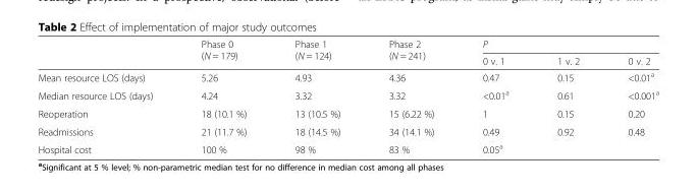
<table><thead><tr><td rowspan="2"></td><td rowspan="2">Phase 0 (N = 179)</td><td rowspan="2">Phase 1 (N = 124)</td><td rowspan="2">Phase 2 (N = 241)</td><td colspan="3">P</td></tr><tr><td>0 v. 1</td><td>1 v. 2</td><td>0 v. 2</td></tr></thead><tbody><tr><td>Mean resource LOS (days)</td><td>5.26</td><td>4.93</td><td>4.36</td><td>0.47</td><td>0.15</td><td>&lt;0.01<sup>a</sup></td></tr><tr><td>Median resource LOS (days)</td><td>4.24</td><td>3.32</td><td>3.32</td><td>&lt;0.01<sup>a</sup></td><td>0.61</td><td>&lt;0.001<sup>a</sup></td></tr><tr><td>Reoperation</td><td>18 (10.1 %)</td><td>13 (10.5 %)</td><td>15 (6.22 %)</td><td>1</td><td>0.15</td><td>0.20</td></tr><tr><td>Readmissions</td><td>21 (11.7 %)</td><td>18 (14.5 %)</td><td>34 (14.1 %)</td><td>0.49</td><td>0.92</td><td>0.48</td></tr><tr><td>Hospital cost</td><td>100 %</td><td>98 %</td><td>83 %</td><td colspan="3">0.05<sup>a</sup></td></tr></tbody></table>